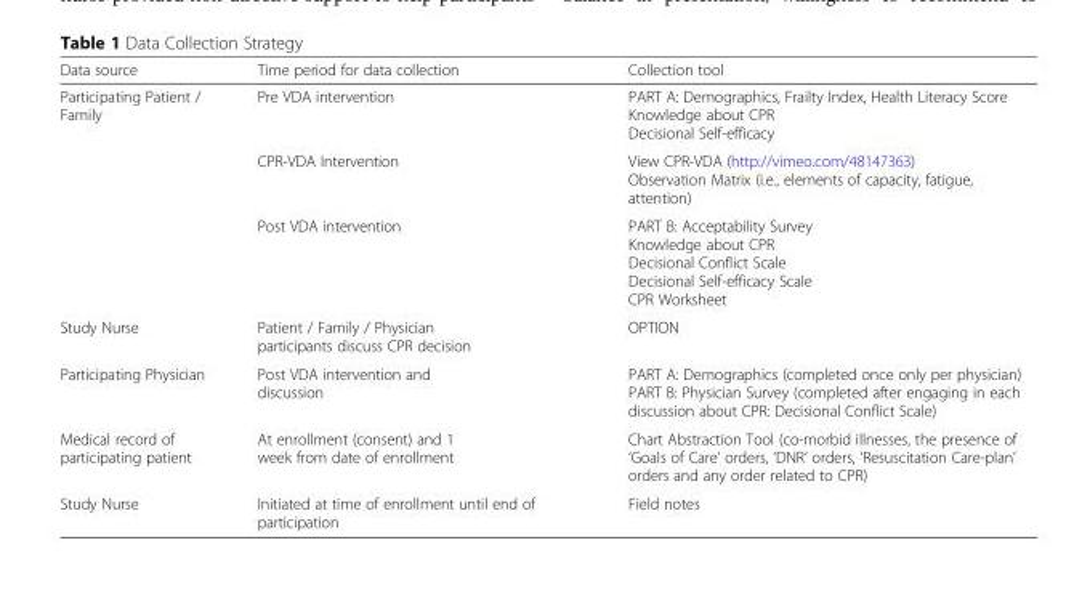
<table><thead><tr><td>Data source</td><td>Time period for data collection</td><td>Collection tool</td></tr></thead><tbody><tr><td rowspan="3">Participating Patient / Family</td><td>Pre VDA intervention</td><td>PART A: Demographics, Frailty Index, Health Literacy Score Knowledge about CPR Decisional Self-efficacy</td></tr><tr><td>CPR-VDA Intervention</td><td>View CPR-VDA (http://vimeo.com/48147363) Observation Matrix (i.e., elements of capacity, fatigue, attention)</td></tr><tr><td>Post VDA intervention</td><td>PART B: Acceptability Survey Knowledge about CPR Decisional Conflict Scale Decisional Self-efficacy Scale CPR Worksheet</td></tr><tr><td>Study Nurse</td><td>Patient / Family / Physician participants discuss CPR decision</td><td>OPTION</td></tr><tr><td>Participating Physician</td><td>Post VDA intervention and discussion</td><td>PART A: Demographics (completed once only per physician) PART B: Physician Survey (completed after engaging in each discussion about CPR: Decisional Conflict Scale)</td></tr><tr><td>Medical record of participating patient</td><td>At enrollment (consent) and 1 week from date of enrollment</td><td>Chart Abstraction Tool (co-morbid illnesses, the presence of ‘Goals of Care’ orders, ‘DNR’ orders, ‘Resuscitation Care-plan’ orders and any order related to CPR)</td></tr><tr><td>Study Nurse</td><td>Initiated at time of enrollment until end of participation</td><td>Field notes</td></tr></tbody></table>